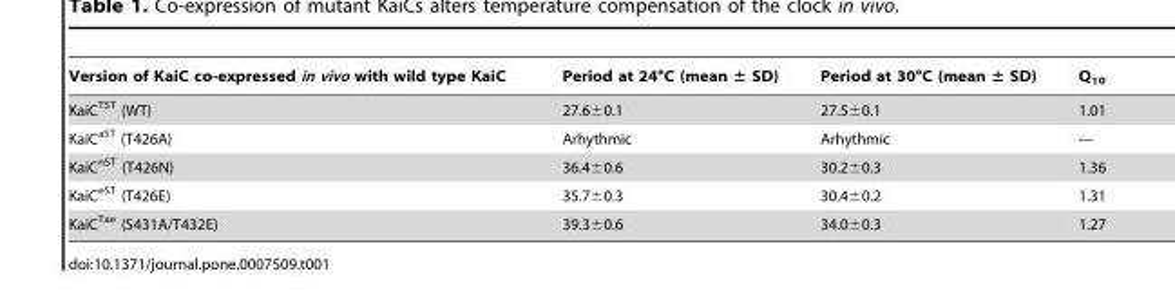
<table><thead><tr><td>Version of KaiC co-expressed in vivo with wild type KaiC</td><td>Period at 24°C (mean ± SD)</td><td>Period at 30°C (mean ± SD)</td><td>Q<sub>10</sub></td></tr></thead><tbody><tr><td>KaiC<sup>TST</sup> (WT)</td><td>27.6±0.1</td><td>27.5±0.1</td><td>1.01</td></tr><tr><td>KaiC<sup>aST</sup> (T426A)</td><td>Arhythmic</td><td>Arhythmic</td><td>---</td></tr><tr><td>KaiC<sup>nST</sup> (T426N)</td><td>36.4±0.6</td><td>30.2±0.3</td><td>1.36</td></tr><tr><td>KaiC<sup>eST</sup> (T426E)</td><td>35.7±0.3</td><td>30.4±0.2</td><td>1.31</td></tr><tr><td>KaiC<sup>Tae</sup> (S431A/T432E)</td><td>39.3±0.6</td><td>34.0±0.3</td><td>1.27</td></tr></tbody></table>